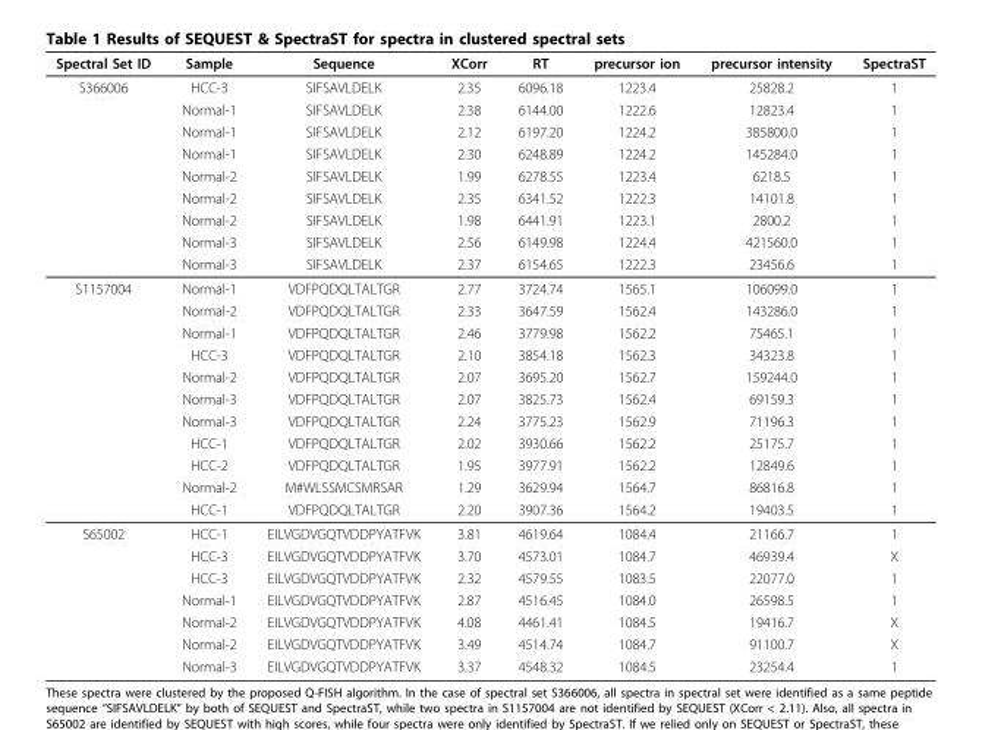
<table><thead><tr><td>Spectral Set ID</td><td>Sample</td><td>Sequence</td><td>XCorr</td><td>RT</td><td>precursor ion</td><td>precursor intensity</td><td>SpectraST</td></tr></thead><tbody><tr><td rowspan="9">S366006</td><td>HCC-3</td><td>SIFSAVLDELK</td><td>2.35</td><td>6096.18</td><td>1223.4</td><td>25828.2</td><td>1</td></tr><tr><td>Normal-1</td><td>SIFSAVLDELK</td><td>2.38</td><td>6144.00</td><td>1222.6</td><td>12823.4</td><td>1</td></tr><tr><td>Normal-1</td><td>SIFSAVLDELK</td><td>2.12</td><td>6197.20</td><td>1224.2</td><td>385800.0</td><td>1</td></tr><tr><td>Normal-1</td><td>SIFSAVLDELK</td><td>2.30</td><td>6248.89</td><td>1224.2</td><td>145284.0</td><td>1</td></tr><tr><td>Normal-2</td><td>SIFSAVLDELK</td><td>1.99</td><td>6278.55</td><td>1223.4</td><td>6218.5</td><td>1</td></tr><tr><td>Normal-2</td><td>SIFSAVLDELK</td><td>2.35</td><td>6341.52</td><td>1222.3</td><td>14101.8</td><td>1</td></tr><tr><td>Normal-2</td><td>SIFSAVLDELK</td><td>1.98</td><td>6441.91</td><td>1223.1</td><td>2800.2</td><td>1</td></tr><tr><td>Normal-3</td><td>SIFSAVLDELK</td><td>2.56</td><td>6149.98</td><td>1224.4</td><td>421560.0</td><td>1</td></tr><tr><td>Normal-3</td><td>SIFSAVLDELK</td><td>2.37</td><td>6154.65</td><td>1222.3</td><td>23456.6</td><td>1</td></tr><tr><td rowspan="11">S1157004</td><td>Normal-1</td><td>VDFPQDQLTALTGR</td><td>2.77</td><td>3724.74</td><td>1565.1</td><td>106099.0</td><td>1</td></tr><tr><td>Normal-2</td><td>VDFPQDQLTALTGR</td><td>2.33</td><td>3647.59</td><td>1562.4</td><td>143286.0</td><td>1</td></tr><tr><td>Normal-1</td><td>VDFPQDQLTALTGR</td><td>2.46</td><td>3779.98</td><td>1562.2</td><td>75465.1</td><td>1</td></tr><tr><td>HCC-3</td><td>VDFPQDQLTALTGR</td><td>2.10</td><td>3854.18</td><td>1562.3</td><td>34323.8</td><td>1</td></tr><tr><td>Normal-2</td><td>VDFPQDQLTALTGR</td><td>2.07</td><td>3695.20</td><td>1562.7</td><td>159244.0</td><td>1</td></tr><tr><td>Normal-3</td><td>VDFPQDQLTALTGR</td><td>2.07</td><td>3825.73</td><td>1562.4</td><td>69159.3</td><td>1</td></tr><tr><td>Normal-3</td><td>VDFPQDQLTALTGR</td><td>2.24</td><td>3775.23</td><td>1562.9</td><td>71196.3</td><td>1</td></tr><tr><td>HCC-1</td><td>VDFPQDQLTALTGR</td><td>2.02</td><td>3930.66</td><td>1562.2</td><td>25175.7</td><td>1</td></tr><tr><td>HCC-2</td><td>VDFPQDQLTALTGR</td><td>1.95</td><td>3977.91</td><td>1562.2</td><td>12849.6</td><td>1</td></tr><tr><td>Normal-2</td><td>M#WLSSMCSMRSAR</td><td>1.29</td><td>3629.94</td><td>1564.7</td><td>86816.8</td><td>1</td></tr><tr><td>HCC-1</td><td>VDFPQDQLTALTGR</td><td>2.20</td><td>3907.36</td><td>1564.2</td><td>19403.5</td><td>1</td></tr><tr><td rowspan="7">S65002</td><td>HCC-1</td><td>EILVGDVGQTVDDPYATFVK</td><td>3.81</td><td>4619.64</td><td>1084.4</td><td>21166.7</td><td>1</td></tr><tr><td>HCC-3</td><td>EILVGDVGQTVDDPYATFVK</td><td>3.70</td><td>4573.01</td><td>1084.7</td><td>46939.4</td><td>X</td></tr><tr><td>HCC-3</td><td>EILVGDVGQTVDDPYATFVK</td><td>2.32</td><td>4579.55</td><td>1083.5</td><td>22077.0</td><td>1</td></tr><tr><td>Normal-1</td><td>EILVGDVGQTVDDPYATFVK</td><td>2.87</td><td>4516.45</td><td>1084.0</td><td>26598.5</td><td>1</td></tr><tr><td>Normal-2</td><td>EILVGDVGQTVDDPYATFVK</td><td>4.08</td><td>4461.41</td><td>1084.5</td><td>19416.7</td><td>X</td></tr><tr><td>Normal-2</td><td>EILVGDVGQTVDDPYATFVK</td><td>3.49</td><td>4514.74</td><td>1084.7</td><td>91100.7</td><td>X</td></tr><tr><td>Normal-3</td><td>EILVGDVGQTVDDPYATFVK</td><td>3.37</td><td>4548.32</td><td>1084.5</td><td>23254.4</td><td>1</td></tr></tbody></table>